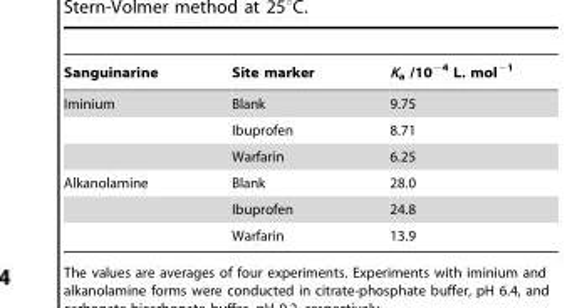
<table><thead><tr><td>Sanguinarine</td><td>Site marker</td><td>K<sub>a</sub> /10<sup>−4</sup> L. mol<sup>−1</sup></td></tr></thead><tbody><tr><td rowspan="3">Iminium</td><td>Blank</td><td>9.75</td></tr><tr><td>Ibuprofen</td><td>8.71</td></tr><tr><td>Warfarin</td><td>6.25</td></tr><tr><td rowspan="3">Alkanolamine</td><td>Blank</td><td>28.0</td></tr><tr><td>Ibuprofen</td><td>24.8</td></tr><tr><td>Warfarin</td><td>13.9</td></tr></tbody></table>